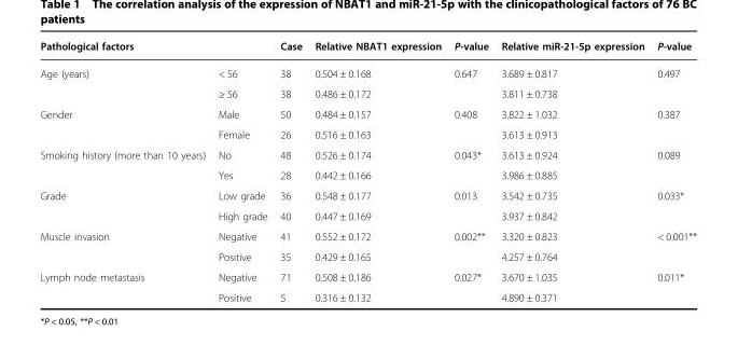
<table><thead><tr><td>Pathological factors</td><td></td><td>Case</td><td>Relative NBAT1 expression</td><td>P-value</td><td>Relative miR-21-5p expression</td><td>P-value</td></tr></thead><tbody><tr><td rowspan="2">Age (years)</td><td>&lt; 56</td><td>38</td><td>0.504 ± 0.168</td><td>0.647</td><td>3.689 ± 0.817</td><td>0.497</td></tr><tr><td>≥ 56</td><td>38</td><td>0.486 ± 0.172</td><td></td><td>3.811 ± 0.738</td><td></td></tr><tr><td rowspan="2">Gender</td><td>Male</td><td>50</td><td>0.484 ± 0.157</td><td>0.408</td><td>3.822 ± 1.032</td><td>0.387</td></tr><tr><td>Female</td><td>26</td><td>0.516 ± 0.163</td><td></td><td>3.613 ± 0.913</td><td></td></tr><tr><td rowspan="2">Smoking history (more than 10 years)</td><td>No</td><td>48</td><td>0.526 ± 0.174</td><td>0.043*</td><td>3.613 ± 0.924</td><td>0.089</td></tr><tr><td>Yes</td><td>28</td><td>0.442 ± 0.166</td><td></td><td>3.986 ± 0.885</td><td></td></tr><tr><td rowspan="2">Grade</td><td>Low grade</td><td>36</td><td>0.548 ± 0.177</td><td>0.013</td><td>3.542 ± 0.735</td><td>0.033*</td></tr><tr><td>High grade</td><td>40</td><td>0.447 ± 0.169</td><td></td><td>3.937 ± 0.842</td><td></td></tr><tr><td rowspan="2">Muscle invasion</td><td>Negative</td><td>41</td><td>0.552 ± 0.172</td><td>0.002**</td><td>3.320 ± 0.823</td><td>&lt; 0.001**</td></tr><tr><td>Positive</td><td>35</td><td>0.429 ± 0.165</td><td></td><td>4.257 ± 0.764</td><td></td></tr><tr><td rowspan="2">Lymph node metastasis</td><td>Negative</td><td>71</td><td>0.508 ± 0.186</td><td>0.027*</td><td>3.670 ± 1.035</td><td>0.011*</td></tr><tr><td>Positive</td><td>5</td><td>0.316 ± 0.132</td><td></td><td>4.890 ± 0.371</td><td></td></tr></tbody></table>